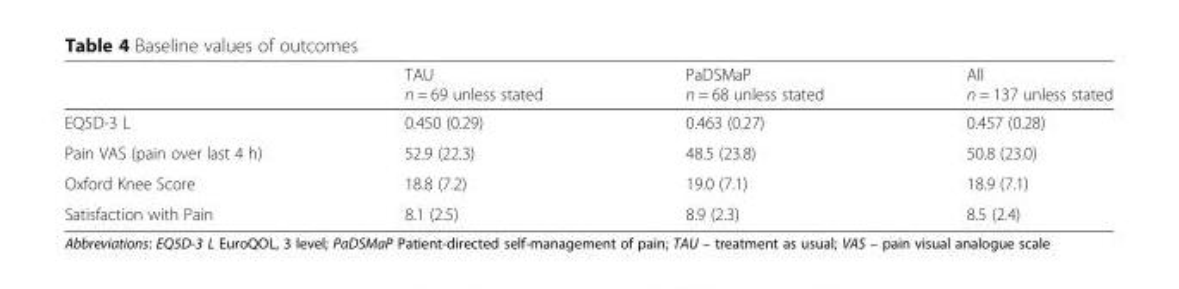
<table><thead><tr><td></td><td>TAU n = 69 unless stated</td><td>PaDSMaP n = 68 unless stated</td><td>All n = 137 unless stated</td></tr></thead><tbody><tr><td>EQ5D-3 L</td><td>0.450 (0.29)</td><td>0.463 (0.27)</td><td>0.457 (0.28)</td></tr><tr><td>Pain VAS (pain over last 4 h)</td><td>52.9 (22.3)</td><td>48.5 (23.8)</td><td>50.8 (23.0)</td></tr><tr><td>Oxford Knee Score</td><td>18.8 (7.2)</td><td>19.0 (7.1)</td><td>18.9 (7.1)</td></tr><tr><td>Satisfaction with Pain</td><td>8.1 (2.5)</td><td>8.9 (2.3)</td><td>8.5 (2.4)</td></tr></tbody></table>